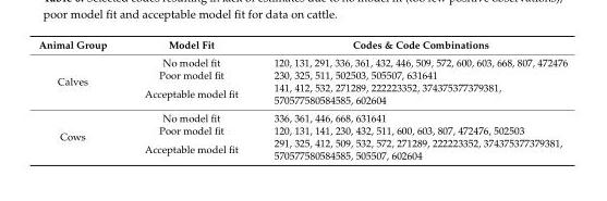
<table><thead><tr><td>Animal Group</td><td>Model Fit</td><td>Codes &amp; Code Combinations</td></tr></thead><tbody><tr><td rowspan="3">Calves</td><td>No model fit</td><td>120, 131, 291, 336, 361, 432, 446, 509, 572, 600, 603, 668, 807, 472476</td></tr><tr><td>Poor model fit</td><td>230, 325, 511, 502503, 505507, 631641</td></tr><tr><td>Acceptable model fit</td><td>141, 412, 532, 271289, 222223352, 374375377379381, 570577580584585, 602604</td></tr><tr><td rowspan="3">Cows</td><td>No model fit</td><td>336, 361, 446, 668, 631641</td></tr><tr><td>Poor model fit</td><td>120, 131, 141, 230, 432, 511, 600, 603, 807, 472476, 502503</td></tr><tr><td>Acceptable model fit</td><td>291, 325, 412, 509, 532, 572, 271289, 222223352, 374375377379381, 570577580584585, 505507, 602604</td></tr></tbody></table>